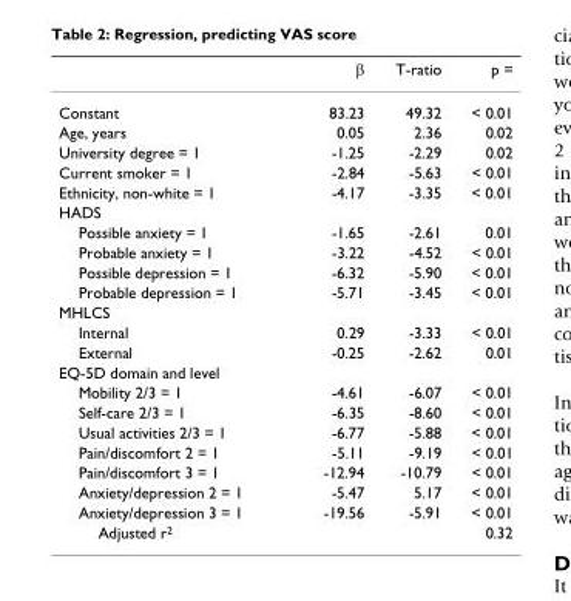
<table><thead><tr><td></td><td>β</td><td>T-ratio</td><td>p =</td></tr></thead><tbody><tr><td>Constant</td><td>83.23</td><td>49.32</td><td>&lt; 0.01</td></tr><tr><td>Age, years</td><td>0.05</td><td>2.36</td><td>0.02</td></tr><tr><td>University degree = 1</td><td>-1.25</td><td>-2.29</td><td>0.02</td></tr><tr><td>Current smoker = 1</td><td>-2.84</td><td>-5.63</td><td>&lt; 0.01</td></tr><tr><td>Ethnicity, non-white = 1</td><td>-4.17</td><td>-3.35</td><td>&lt; 0.01</td></tr><tr><td colspan="4">HADS</td></tr><tr><td>Possible anxiety = 1</td><td>-1.65</td><td>-2.61</td><td>0.01</td></tr><tr><td>Probable anxiety = 1</td><td>-3.22</td><td>-4.52</td><td>&lt; 0.01</td></tr><tr><td>Possible depression = 1</td><td>-6.32</td><td>-5.90</td><td>&lt; 0.01</td></tr><tr><td>Probable depression = 1</td><td>-5.71</td><td>-3.45</td><td>&lt; 0.01</td></tr><tr><td colspan="4">MHLCS</td></tr><tr><td>Internal</td><td>0.29</td><td>-3.33</td><td>&lt; 0.01</td></tr><tr><td>External</td><td>-0.25</td><td>-2.62</td><td>0.01</td></tr><tr><td colspan="4">EQ-5D domain and level</td></tr><tr><td>Mobility 2/3 = 1</td><td>-4.61</td><td>-6.07</td><td>&lt; 0.01</td></tr><tr><td>Self-care 2/3 = 1</td><td>-6.35</td><td>-8.60</td><td>&lt; 0.01</td></tr><tr><td>Usual activities 2/3 = 1</td><td>-6.77</td><td>-5.88</td><td>&lt; 0.01</td></tr><tr><td>Pain/discomfort 2 = 1</td><td>-5.11</td><td>-9.19</td><td>&lt; 0.01</td></tr><tr><td>Pain/discomfort 3 = 1</td><td>-12.94</td><td>-10.79</td><td>&lt; 0.01</td></tr><tr><td>Anxiety/depression 2 = 1</td><td>-5.47</td><td>5.17</td><td>&lt; 0.01</td></tr><tr><td>Anxiety/depression 3 = 1</td><td>-19.56</td><td>-5.91</td><td>&lt; 0.01</td></tr><tr><td>Adjusted r<sup>2</sup></td><td></td><td></td><td>0.32</td></tr></tbody></table>